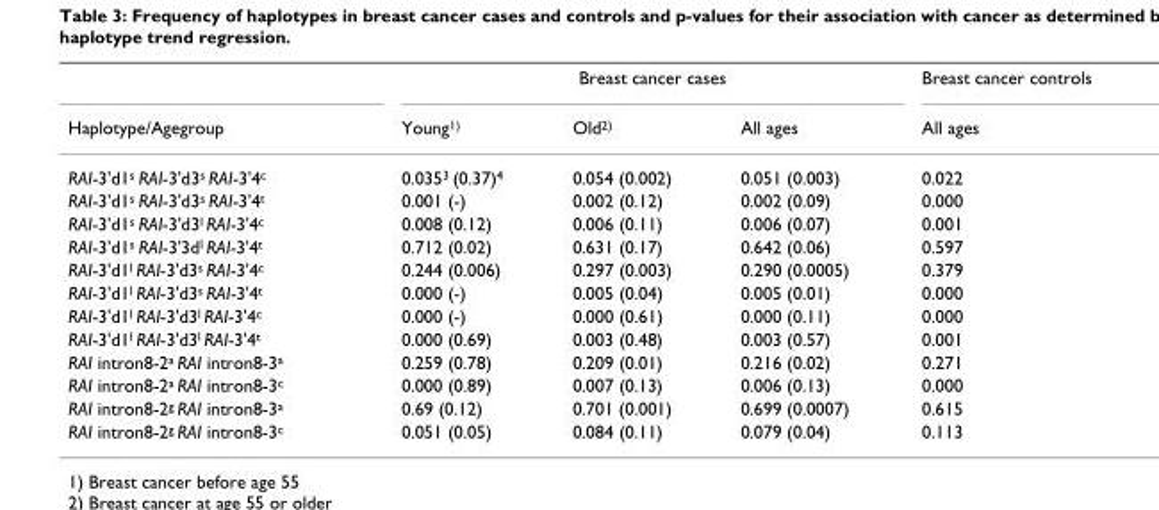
<table><thead><tr><td rowspan="2">Haplotype/Agegroup</td><td colspan="3">Breast cancer cases</td><td rowspan="2">Breast cancer controls All ages</td></tr><tr><td>Young<sup>1)</sup></td><td>Old<sup>2)</sup></td><td>All ages</td></tr></thead><tbody><tr><td>RAI-3&#x27;d1<sup>s</sup> RAI-3&#x27;d3<sup>s</sup> RAI-3&#x27;4<sup>c</sup></td><td>0.035<sup>3</sup> (0.37)<sup>4</sup></td><td>0.054 (0.002)</td><td>0.051 (0.003)</td><td>0.022</td></tr><tr><td>RAI-3&#x27;d1<sup>s</sup> RAI-3&#x27;d3<sup>s</sup> RAI-3&#x27;4<sup>t</sup></td><td>0.001 (-)</td><td>0.002 (0.12)</td><td>0.002 (0.09)</td><td>0.000</td></tr><tr><td>RAI-3&#x27;d1<sup>s</sup> RAI-3&#x27;d3<sup>l</sup> RAI-3&#x27;4<sup>c</sup></td><td>0.008 (0.12)</td><td>0.006 (0.11)</td><td>0.006 (0.07)</td><td>0.001</td></tr><tr><td>RAI-3&#x27;d1<sup>s</sup> RAI-3&#x27;3d<sup>l</sup> RAI-3&#x27;4<sup>t</sup></td><td>0.712 (0.02)</td><td>0.631 (0.17)</td><td>0.642 (0.06)</td><td>0.597</td></tr><tr><td>RAI-3&#x27;d1<sup>l</sup> RAI-3&#x27;d3<sup>s</sup> RAI-3&#x27;4<sup>c</sup></td><td>0.244 (0.006)</td><td>0.297 (0.003)</td><td>0.290 (0.0005)</td><td>0.379</td></tr><tr><td>RAI-3&#x27;d1<sup>l</sup> RAI-3&#x27;d3<sup>s</sup> RAI-3&#x27;4<sup>t</sup></td><td>0.000 (-)</td><td>0.005 (0.04)</td><td>0.005 (0.01)</td><td>0.000</td></tr><tr><td>RAI-3&#x27;d1<sup>l</sup> RAI-3&#x27;d3<sup>l</sup> RAI-3&#x27;4<sup>c</sup></td><td>0.000 (-)</td><td>0.000 (0.61)</td><td>0.000 (0.11)</td><td>0.000</td></tr><tr><td>RAI-3&#x27;d1<sup>l</sup> RAI-3&#x27;d3<sup>l</sup> RAI-3&#x27;4<sup>t</sup></td><td>0.000 (0.69)</td><td>0.003 (0.48)</td><td>0.003 (0.57)</td><td>0.001</td></tr><tr><td>RAI intron8-2<sup>a</sup> RAI intron8-3<sup>a</sup></td><td>0.259 (0.78)</td><td>0.209 (0.01)</td><td>0.216 (0.02)</td><td>0.271</td></tr><tr><td>RAI intron8-2<sup>a</sup> RAI intron8-3<sup>c</sup></td><td>0.000 (0.89)</td><td>0.007 (0.13)</td><td>0.006 (0.13)</td><td>0.000</td></tr><tr><td>RAI intron8-2<sup>g</sup> RAI intron8-3<sup>a</sup></td><td>0.69 (0.12)</td><td>0.701 (0.001)</td><td>0.699 (0.0007)</td><td>0.615</td></tr><tr><td>RAI intron8-2<sup>g</sup> RAI intron8-3<sup>c</sup></td><td>0.051 (0.05)</td><td>0.084 (0.11)</td><td>0.079 (0.04)</td><td>0.113</td></tr></tbody></table>